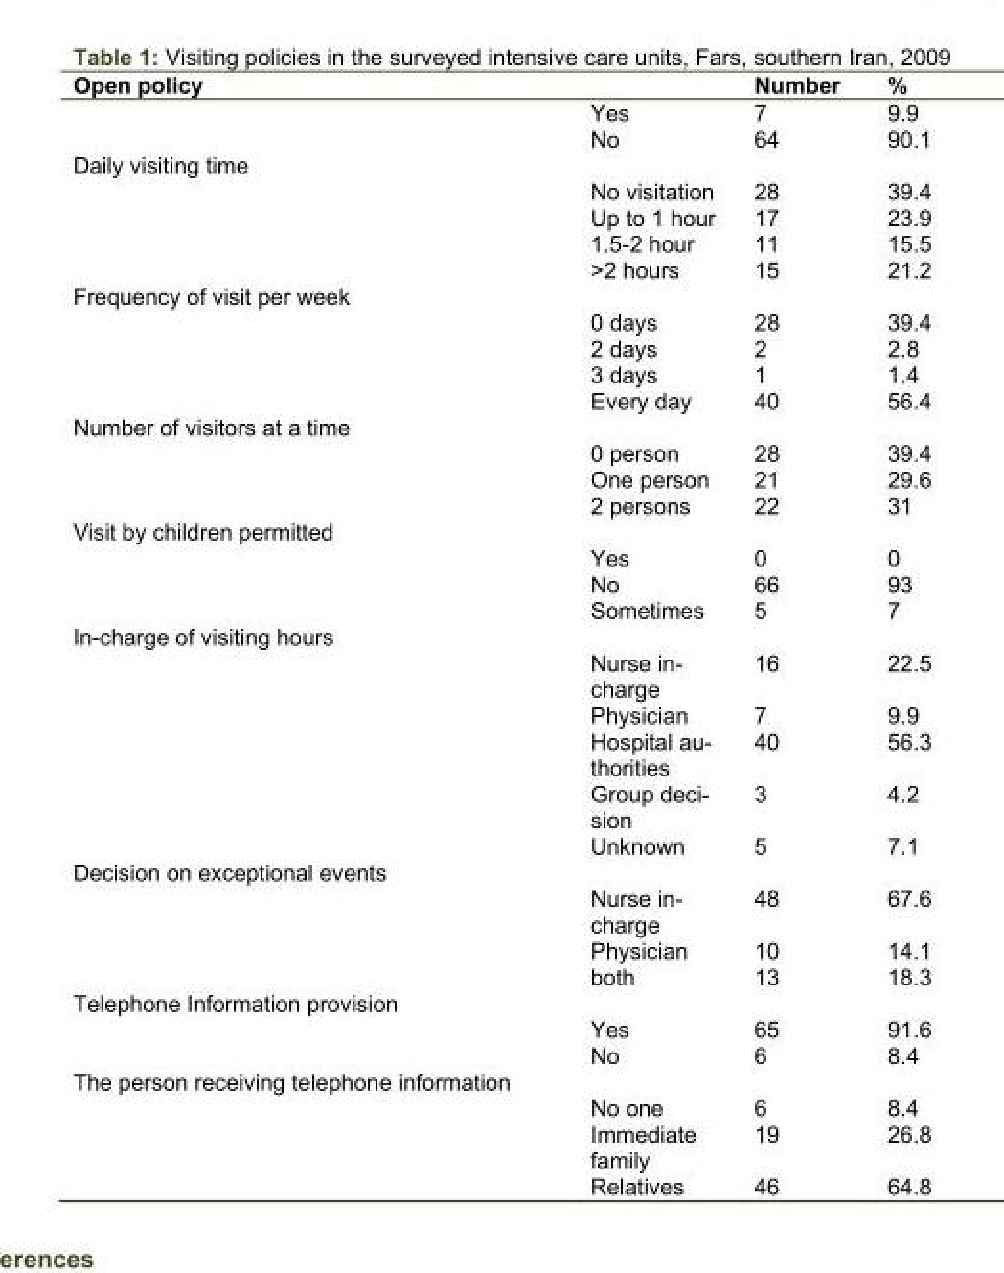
<table><thead><tr><td>Open policy</td><td></td><td>Number</td><td>%</td></tr></thead><tbody><tr><td></td><td>Yes</td><td>7</td><td>9.9</td></tr><tr><td></td><td>No</td><td>64</td><td>90.1</td></tr><tr><td colspan="4">Daily visiting time</td></tr><tr><td></td><td>No visitation</td><td>28</td><td>39.4</td></tr><tr><td></td><td>Up to 1 hour</td><td>17</td><td>23.9</td></tr><tr><td></td><td>1.5-2 hour</td><td>11</td><td>15.5</td></tr><tr><td></td><td>&gt;2 hours</td><td>15</td><td>21.2</td></tr><tr><td colspan="4">Frequency of visit per week</td></tr><tr><td></td><td>0 days</td><td>28</td><td>39.4</td></tr><tr><td></td><td>2 days</td><td>2</td><td>2.8</td></tr><tr><td></td><td>3 days</td><td>1</td><td>1.4</td></tr><tr><td></td><td>Every day</td><td>40</td><td>56.4</td></tr><tr><td colspan="4">Number of visitors at a time</td></tr><tr><td></td><td>0 person</td><td>28</td><td>39.4</td></tr><tr><td></td><td>One person</td><td>21</td><td>29.6</td></tr><tr><td></td><td>2 persons</td><td>22</td><td>31</td></tr><tr><td colspan="4">Visit by children permitted</td></tr><tr><td></td><td>Yes</td><td>0</td><td>0</td></tr><tr><td></td><td>No</td><td>66</td><td>93</td></tr><tr><td></td><td>Sometimes</td><td>5</td><td>7</td></tr><tr><td colspan="4">In-charge of visiting hours</td></tr><tr><td></td><td>Nurse in- charge</td><td>16</td><td>22.5</td></tr><tr><td></td><td>Physician</td><td>7</td><td>9.9</td></tr><tr><td></td><td>Hospital au- thorities</td><td>40</td><td>56.3</td></tr><tr><td></td><td>Group deci- sion</td><td>3</td><td>4.2</td></tr><tr><td></td><td>Unknown</td><td>5</td><td>7.1</td></tr><tr><td colspan="4">Decision on exceptional events</td></tr><tr><td></td><td>Nurse in- charge</td><td>48</td><td>67.6</td></tr><tr><td></td><td>Physician</td><td>10</td><td>14.1</td></tr><tr><td></td><td>both</td><td>13</td><td>18.3</td></tr><tr><td colspan="4">Telephone Information provision</td></tr><tr><td></td><td>Yes</td><td>65</td><td>91.6</td></tr><tr><td></td><td>No</td><td>6</td><td>8.4</td></tr><tr><td colspan="4">The person receiving telephone information</td></tr><tr><td></td><td>No one</td><td>6</td><td>8.4</td></tr><tr><td></td><td>Immediate family</td><td>19</td><td>26.8</td></tr><tr><td></td><td>Relatives</td><td>46</td><td>64.8</td></tr></tbody></table>